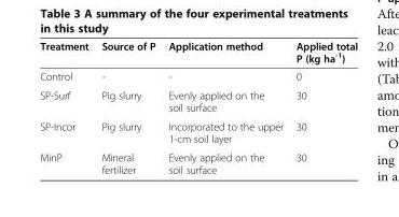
<table><thead><tr><td>Treatment</td><td>Source of P</td><td>Application method</td><td>Applied total P (kg ha<sup>-1</sup>)</td></tr></thead><tbody><tr><td>Control</td><td>-</td><td>-</td><td>0</td></tr><tr><td>SP-Surf</td><td>Pig slurry</td><td>Evenly applied on the soil surface</td><td>30</td></tr><tr><td>SP-Incor</td><td>Pig slurry</td><td>Incorporated to the upper 1-cm soil layer</td><td>30</td></tr><tr><td>MinP</td><td>Mineral fertilizer</td><td>Evenly applied on the soil surface</td><td>30</td></tr></tbody></table>